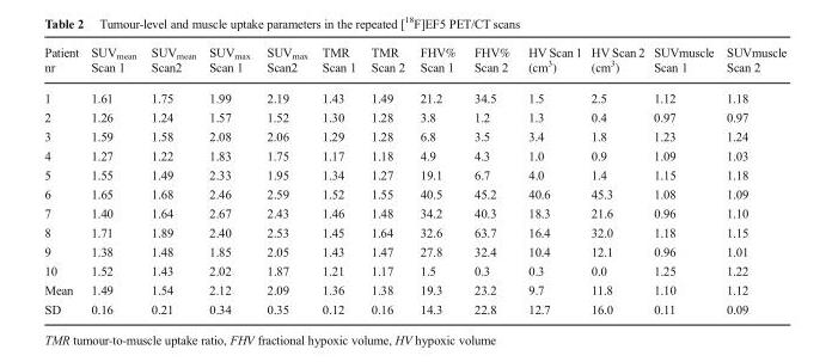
<table><thead><tr><td>Patient nr</td><td>SUV<sub>mean</sub> Scan 1</td><td>SUV<sub>mean</sub> Scan2</td><td>SUV<sub>max</sub> Scan 1</td><td>SUV<sub>max</sub> Scan2</td><td>TMR Scan 1</td><td>TMR Scan 2</td><td>FHV% Scan 1</td><td>FHV% Scan 2</td><td>HV Scan 1 (cm<sup>3</sup>)</td><td>HV Scan 2 (cm<sup>3</sup>)</td><td>SUVmuscle Scan 1</td><td>SUVmuscle Scan 2</td></tr></thead><tbody><tr><td>1</td><td>1.61</td><td>1.75</td><td>1.99</td><td>2.19</td><td>1.43</td><td>1.49</td><td>21.2</td><td>34.5</td><td>1.5</td><td>2.5</td><td>1.12</td><td>1.18</td></tr><tr><td>2</td><td>1.26</td><td>1.24</td><td>1.57</td><td>1.52</td><td>1.30</td><td>1.28</td><td>3.8</td><td>1.2</td><td>1.3</td><td>0.4</td><td>0.97</td><td>0.97</td></tr><tr><td>3</td><td>1.59</td><td>1.58</td><td>2.08</td><td>2.06</td><td>1.29</td><td>1.28</td><td>6.8</td><td>3.5</td><td>3.4</td><td>1.8</td><td>1.23</td><td>1.24</td></tr><tr><td>4</td><td>1.27</td><td>1.22</td><td>1.83</td><td>1.75</td><td>1.17</td><td>1.18</td><td>4.9</td><td>4.3</td><td>1.0</td><td>0.9</td><td>1.09</td><td>1.03</td></tr><tr><td>5</td><td>1.55</td><td>1.49</td><td>2.33</td><td>1.95</td><td>1.34</td><td>1.27</td><td>19.1</td><td>6.7</td><td>4.0</td><td>1.4</td><td>1.15</td><td>1.18</td></tr><tr><td>6</td><td>1.65</td><td>1.68</td><td>2.46</td><td>2.59</td><td>1.52</td><td>1.55</td><td>40.5</td><td>45.2</td><td>40.6</td><td>45.3</td><td>1.08</td><td>1.09</td></tr><tr><td>7</td><td>1.40</td><td>1.64</td><td>2.67</td><td>2.43</td><td>1.46</td><td>1.48</td><td>34.2</td><td>40.3</td><td>18.3</td><td>21.6</td><td>0.96</td><td>1.10</td></tr><tr><td>8</td><td>1.71</td><td>1.89</td><td>2.40</td><td>2.53</td><td>1.45</td><td>1.64</td><td>32.6</td><td>63.7</td><td>16.4</td><td>32.0</td><td>1.18</td><td>1.15</td></tr><tr><td>9</td><td>1.38</td><td>1.48</td><td>1.85</td><td>2.05</td><td>1.43</td><td>1.47</td><td>27.8</td><td>32.4</td><td>10.4</td><td>12.1</td><td>0.96</td><td>1.01</td></tr><tr><td>10</td><td>1.52</td><td>1.43</td><td>2.02</td><td>1.87</td><td>1.21</td><td>1.17</td><td>1.5</td><td>0.3</td><td>0.3</td><td>0.0</td><td>1.25</td><td>1.22</td></tr><tr><td>Mean</td><td>1.49</td><td>1.54</td><td>2.12</td><td>2.09</td><td>1.36</td><td>1.38</td><td>19.3</td><td>23.2</td><td>9.7</td><td>11.8</td><td>1.10</td><td>1.12</td></tr><tr><td>SD</td><td>0.16</td><td>0.21</td><td>0.34</td><td>0.35</td><td>0.12</td><td>0.16</td><td>14.3</td><td>22.8</td><td>12.7</td><td>16.0</td><td>0.11</td><td>0.09</td></tr></tbody></table>